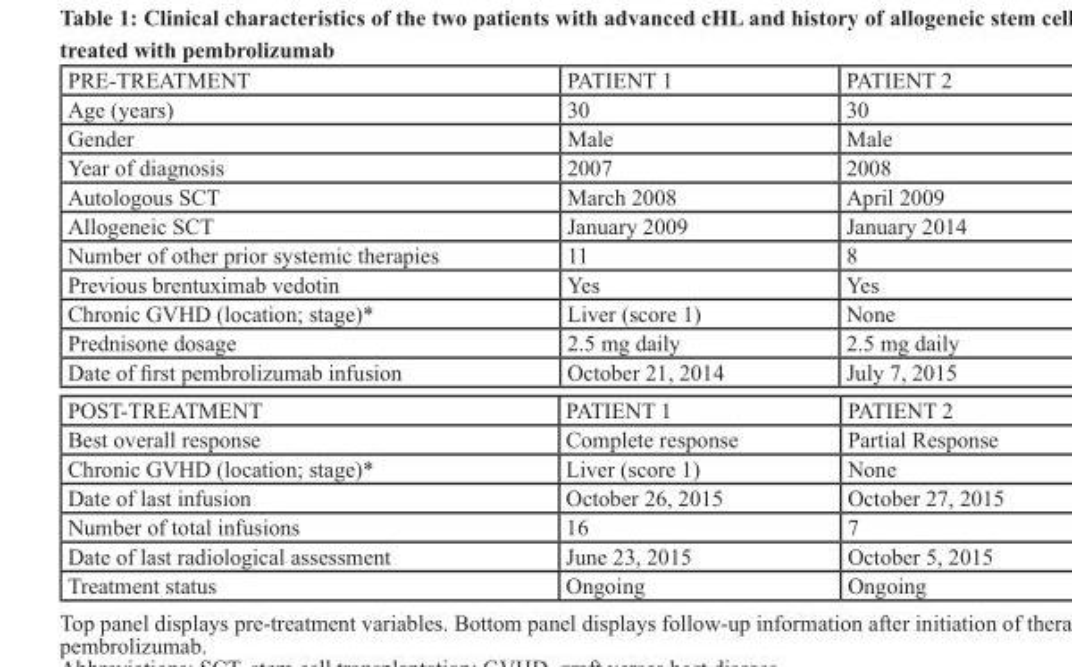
<table><thead><tr><td>PRE-TREATMENT</td><td>PATIENT 1</td><td>PATIENT 2</td></tr></thead><tbody><tr><td>Age (years)</td><td>30</td><td>30</td></tr><tr><td>Gender</td><td>Male</td><td>Male</td></tr><tr><td>Year of diagnosis</td><td>2007</td><td>2008</td></tr><tr><td>Autologous SCT</td><td>March 2008</td><td>April 2009</td></tr><tr><td>Allogeneic SCT</td><td>January 2009</td><td>January 2014</td></tr><tr><td>Number of other prior systemic therapies</td><td>11</td><td>8</td></tr><tr><td>Previous brentuximab vedotin</td><td>Yes</td><td>Yes</td></tr><tr><td>Chronic GVHD (location; stage)*</td><td>Liver (score 1)</td><td>None</td></tr><tr><td>Prednisone dosage</td><td>2.5 mg daily</td><td>2.5 mg daily</td></tr><tr><td>Date of first pembrolizumab infusion</td><td>October 21, 2014</td><td>July 7, 2015</td></tr><tr><td>POST-TREATMENT</td><td>PATIENT 1</td><td>PATIENT 2</td></tr><tr><td>Best overall response</td><td>Complete response</td><td>Partial Response</td></tr><tr><td>Chronic GVHD (location; stage)*</td><td>Liver (score 1)</td><td>None</td></tr><tr><td>Date of last infusion</td><td>October 26, 2015</td><td>October 27, 2015</td></tr><tr><td>Number of total infusions</td><td>16</td><td>7</td></tr><tr><td>Date of last radiological assessment</td><td>June 23, 2015</td><td>October 5, 2015</td></tr><tr><td>Treatment status</td><td>Ongoing</td><td>Ongoing</td></tr></tbody></table>